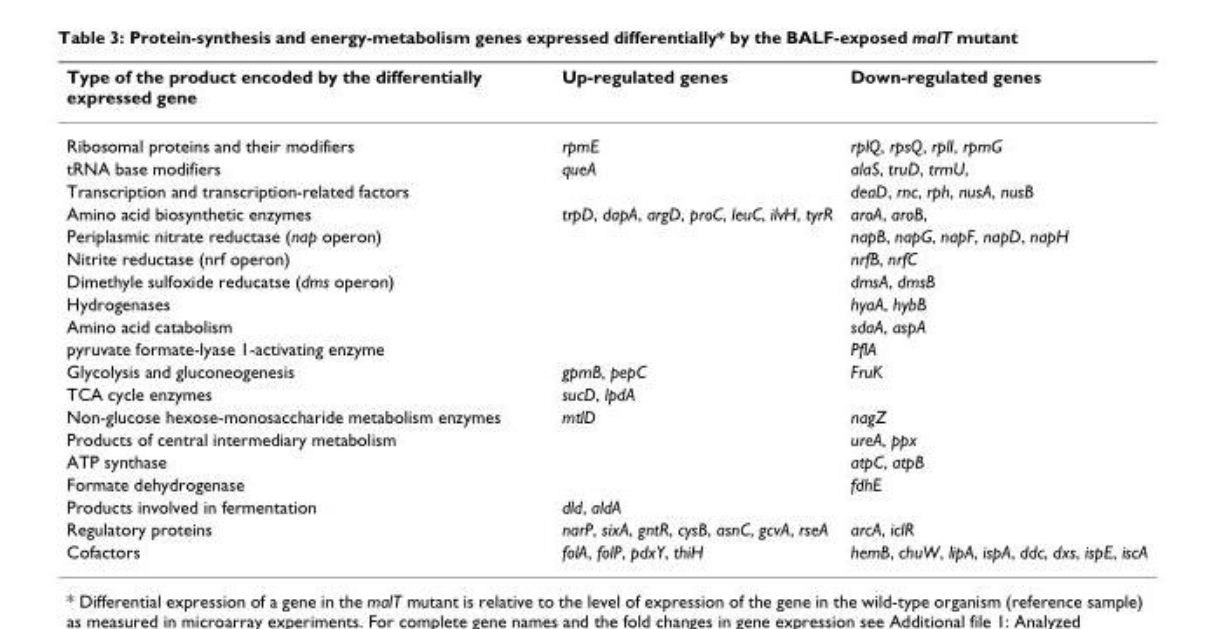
<table><thead><tr><td>Type of the product encoded by the differentially expressed gene</td><td>Up-regulated genes</td><td>Down-regulated genes</td></tr></thead><tbody><tr><td>Ribosomal proteins and their modifiers</td><td>rpmE</td><td>rplQ, rpsQ, rplI, rpmG</td></tr><tr><td>tRNA base modifiers</td><td>queA</td><td>alaS, truD, trmU,</td></tr><tr><td>Transcription and transcription-related factors</td><td></td><td>deaD, rnc, rph, nusA, nusB</td></tr><tr><td>Amino acid biosynthetic enzymes</td><td>trpD, dapA, argD, proC, leuC, ilvH, tyrR</td><td>aroA, aroB,</td></tr><tr><td>Periplasmic nitrate reductase (nap operon)</td><td></td><td>napB, napG, napF, napD, napH</td></tr><tr><td>Nitrite reductase (nrf operon)</td><td></td><td>nrfB, nrfC</td></tr><tr><td>Dimethyle sulfoxide reducatse (dms operon)</td><td></td><td>dmsA, dmsB</td></tr><tr><td>Hydrogenases</td><td></td><td>hyaA, hybB</td></tr><tr><td>Amino acid catabolism</td><td></td><td>sdaA, aspA</td></tr><tr><td>pyruvate formate-lyase 1-activating enzyme</td><td></td><td>PflA</td></tr><tr><td>Glycolysis and gluconeogenesis</td><td>gpmB, pepC</td><td>FruK</td></tr><tr><td>TCA cycle enzymes</td><td>sucD, lpdA</td><td></td></tr><tr><td>Non-glucose hexose-monosaccharide metabolism enzymes</td><td>mtlD</td><td>nagZ</td></tr><tr><td>Products of central intermediary metabolism</td><td></td><td>ureA, ppx</td></tr><tr><td>ATP synthase</td><td></td><td>atpC, atpB</td></tr><tr><td>Formate dehydrogenase</td><td></td><td>fdhE</td></tr><tr><td>Products involved in fermentation</td><td>dld, aldA</td><td></td></tr><tr><td>Regulatory proteins</td><td>narP, sixA, gntR, cysB, asnC, gcvA, rseA</td><td>arcA, iclR</td></tr><tr><td>Cofactors</td><td>folA, folP, pdxY, thiH</td><td>hemB, chuW, lipA, ispA, ddc, dxs, ispE, iscA</td></tr></tbody></table>